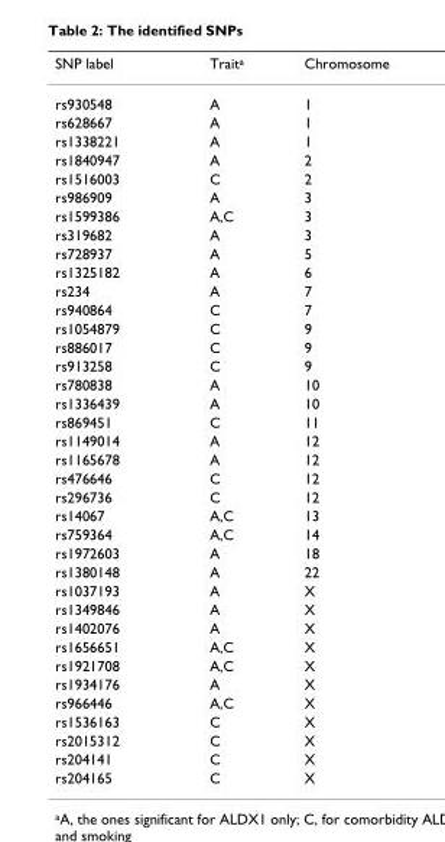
<table><thead><tr><td>SNP label</td><td>Traita</td><td>Chromosome</td></tr></thead><tbody><tr><td>rs930548</td><td>A</td><td>1</td></tr><tr><td>rs628667</td><td>A</td><td>1</td></tr><tr><td>rs1338221</td><td>A</td><td>1</td></tr><tr><td>rs1840947</td><td>A</td><td>2</td></tr><tr><td>rs1516003</td><td>C</td><td>2</td></tr><tr><td>rs986909</td><td>A</td><td>3</td></tr><tr><td>rs1599386</td><td>A,C</td><td>3</td></tr><tr><td>rs319682</td><td>A</td><td>3</td></tr><tr><td>rs728937</td><td>A</td><td>5</td></tr><tr><td>rs1325182</td><td>A</td><td>6</td></tr><tr><td>rs234</td><td>A</td><td>7</td></tr><tr><td>rs940864</td><td>C</td><td>7</td></tr><tr><td>rs1054879</td><td>C</td><td>9</td></tr><tr><td>rs886017</td><td>C</td><td>9</td></tr><tr><td>rs913258</td><td>C</td><td>9</td></tr><tr><td>rs780838</td><td>A</td><td>10</td></tr><tr><td>rs1336439</td><td>A</td><td>10</td></tr><tr><td>rs869451</td><td>C</td><td>11</td></tr><tr><td>rs1149014</td><td>A</td><td>12</td></tr><tr><td>rs1165678</td><td>A</td><td>12</td></tr><tr><td>rs476646</td><td>C</td><td>12</td></tr><tr><td>rs296736</td><td>C</td><td>12</td></tr><tr><td>rs14067</td><td>A,C</td><td>13</td></tr><tr><td>rs759364</td><td>A,C</td><td>14</td></tr><tr><td>rs1972603</td><td>A</td><td>18</td></tr><tr><td>rs1380148</td><td>A</td><td>22</td></tr><tr><td>rs1037193</td><td>A</td><td>X</td></tr><tr><td>rs1349846</td><td>A</td><td>X</td></tr><tr><td>rs1402076</td><td>A</td><td>X</td></tr><tr><td>rs1656651</td><td>A,C</td><td>X</td></tr><tr><td>rs1921708</td><td>A,C</td><td>X</td></tr><tr><td>rs1934176</td><td>A</td><td>X</td></tr><tr><td>rs966446</td><td>A,C</td><td>X</td></tr><tr><td>rs1536163</td><td>C</td><td>X</td></tr><tr><td>rs2015312</td><td>C</td><td>X</td></tr><tr><td>rs204141</td><td>C</td><td>X</td></tr><tr><td>rs204165</td><td>C</td><td>X</td></tr></tbody></table>